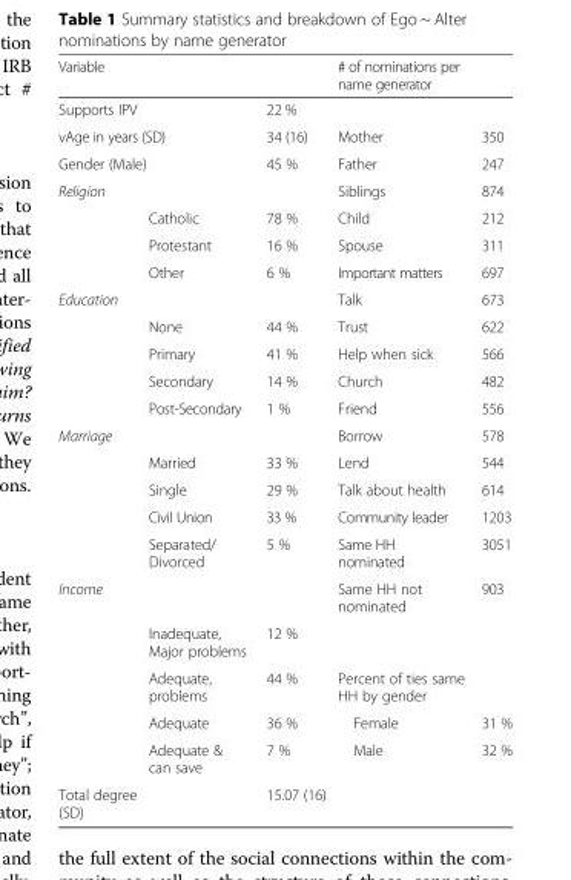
<table><thead><tr><td colspan="2">Variable</td><td></td><td># of nominations per name generator</td><td></td></tr></thead><tbody><tr><td colspan="2">Supports IPV</td><td>22 %</td><td></td><td></td></tr><tr><td colspan="2">vAge in years (SD)</td><td>34 (16)</td><td>Mother</td><td>350</td></tr><tr><td colspan="2">Gender (Male)</td><td>45 %</td><td>Father</td><td>247</td></tr><tr><td colspan="2">Religion</td><td></td><td>Siblings</td><td>874</td></tr><tr><td></td><td>Catholic</td><td>78 %</td><td>Child</td><td>212</td></tr><tr><td></td><td>Protestant</td><td>16 %</td><td>Spouse</td><td>311</td></tr><tr><td></td><td>Other</td><td>6 %</td><td>Important matters</td><td>697</td></tr><tr><td colspan="2">Education</td><td></td><td>Talk</td><td>673</td></tr><tr><td></td><td>None</td><td>44 %</td><td>Trust</td><td>622</td></tr><tr><td></td><td>Primary</td><td>41 %</td><td>Help when sick</td><td>566</td></tr><tr><td></td><td>Secondary</td><td>14 %</td><td>Church</td><td>482</td></tr><tr><td></td><td>Post-Secondary</td><td>1 %</td><td>Friend</td><td>556</td></tr><tr><td colspan="2">Marriage</td><td></td><td>Borrow</td><td>578</td></tr><tr><td></td><td>Married</td><td>33 %</td><td>Lend</td><td>544</td></tr><tr><td></td><td>Single</td><td>29 %</td><td>Talk about health</td><td>614</td></tr><tr><td></td><td>Civil Union</td><td>33 %</td><td>Community leader</td><td>1203</td></tr><tr><td></td><td>Separated/ Divorced</td><td>5 %</td><td>Same HH nominated</td><td>3051</td></tr><tr><td colspan="2">Income</td><td></td><td>Same HH not nominated</td><td>903</td></tr><tr><td></td><td>Inadequate, Major problems</td><td>12 %</td><td></td><td></td></tr><tr><td></td><td>Adequate, problems</td><td>44 %</td><td>Percent of ties same HH by gender</td><td></td></tr><tr><td></td><td>Adequate</td><td>36 %</td><td>Female</td><td>31 %</td></tr><tr><td></td><td>Adequate &amp; can save</td><td>7 %</td><td>Male</td><td>32 %</td></tr><tr><td>Total degree (SD)</td><td></td><td>15.07 (16)</td><td></td><td></td></tr></tbody></table>